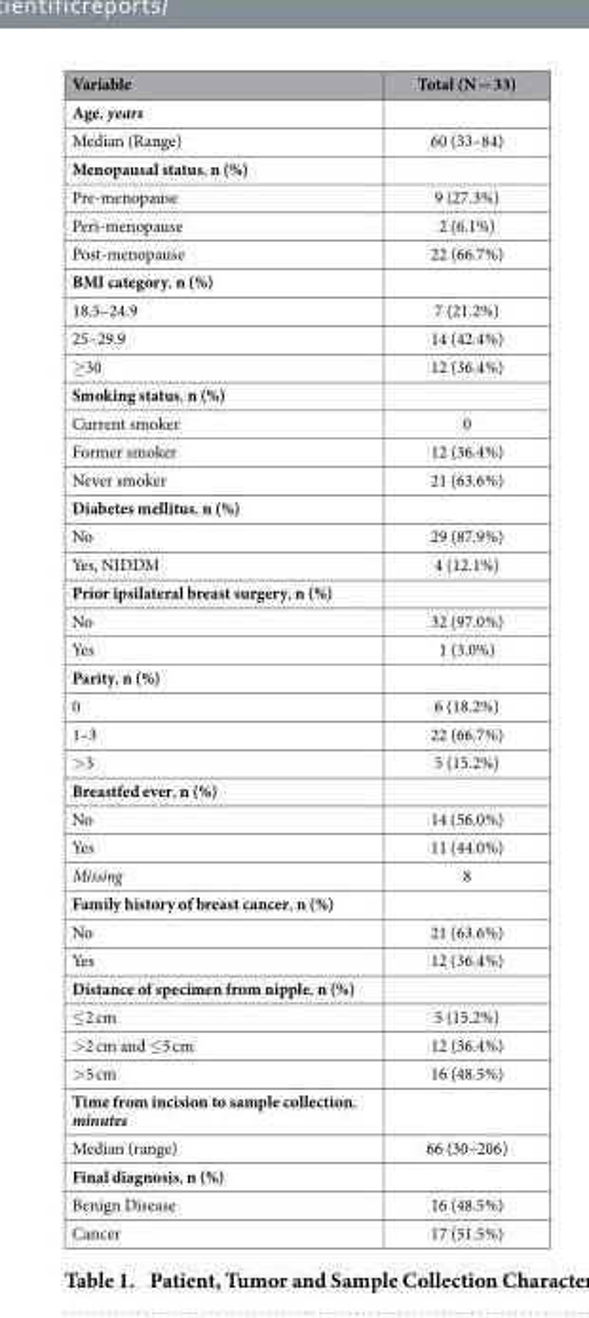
<table><thead><tr><td>Variable</td><td>Total (N = 33)</td></tr></thead><tbody><tr><td colspan="2">Age, years</td></tr><tr><td>Median (Range)</td><td>60 (33–84)</td></tr><tr><td colspan="2">Menopausal status, n (%)</td></tr><tr><td>Pre-menopause</td><td>9 (27.3%)</td></tr><tr><td>Peri-menopause</td><td>2 (6.1%)</td></tr><tr><td>Post-menopause</td><td>22 (66.7%)</td></tr><tr><td colspan="2">BMI category, n (%)</td></tr><tr><td>18.5–24.9</td><td>7 (21.2%)</td></tr><tr><td>25–29.9</td><td>14 (42.4%)</td></tr><tr><td>≥ 30</td><td>12 (36.4%)</td></tr><tr><td colspan="2">Smoking status, n (%)</td></tr><tr><td>Current smoker</td><td>0</td></tr><tr><td>Former smoker</td><td>12 (36.4%)</td></tr><tr><td>Never smoker</td><td>21 (63.6%)</td></tr><tr><td colspan="2">Diabetes mellitus, n (%)</td></tr><tr><td>No</td><td>29 (87.9%)</td></tr><tr><td>Yes, NIDDM</td><td>4 (12.1%)</td></tr><tr><td colspan="2">Prior ipsilateral breast surgery, n (%)</td></tr><tr><td>No</td><td>32 (97.0%)</td></tr><tr><td>Yes</td><td>1 (3.0%)</td></tr><tr><td colspan="2">Parity, n (%)</td></tr><tr><td>0</td><td>6 (18.2%)</td></tr><tr><td>1–3</td><td>22 (66.7%)</td></tr><tr><td>&gt; 3</td><td>5 (15.2%)</td></tr><tr><td colspan="2">Breastfed ever, n (%)</td></tr><tr><td>No</td><td>14 (56.0%)</td></tr><tr><td>Yes</td><td>11 (44.0%)</td></tr><tr><td>Missing</td><td>8</td></tr><tr><td colspan="2">Family history of breast cancer, n (%)</td></tr><tr><td>No</td><td>21 (63.6%)</td></tr><tr><td>Yes</td><td>12 (36.4%)</td></tr><tr><td colspan="2">Distance of specimen from nipple, n (%)</td></tr><tr><td>≤ 2 cm</td><td>5 (15.2%)</td></tr><tr><td>&gt; 2 cm and ≤ 5 cm</td><td>12 (36.4%)</td></tr><tr><td>&gt; 5 cm</td><td>16 (48.5%)</td></tr><tr><td colspan="2">Time from incision to sample collection, minutes</td></tr><tr><td>Median (range)</td><td>66 (30–206)</td></tr><tr><td colspan="2">Final diagnosis, n (%)</td></tr><tr><td>Benign Disease</td><td>16 (48.5%)</td></tr><tr><td>Cancer</td><td>17 (51.5%)</td></tr></tbody></table>